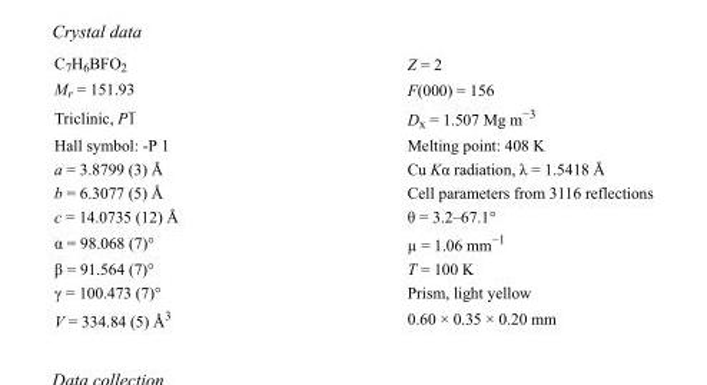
<table><tbody><tr><td>C<sub>7</sub>H<sub>6</sub>BFO<sub>2</sub></td><td>Z = 2</td></tr><tr><td>M<sub>r</sub> = 151.93</td><td>F(000) = 156</td></tr><tr><td>Triclinic, P1</td><td>D<sub>x</sub> = 1.507 Mg m<sup>−3</sup></td></tr><tr><td>Hall symbol: -P 1</td><td>Melting point: 408 K</td></tr><tr><td>a = 3.8799 (3) Å</td><td>Cu Kα radiation, λ = 1.5418 Å</td></tr><tr><td>b = 6.3077 (5) Å</td><td>Cell parameters from 3116 reflections</td></tr><tr><td>c = 14.0735 (12) Å</td><td>θ = 3.2–67.1°</td></tr><tr><td>α = 98.068 (7)°</td><td>µ = 1.06 mm<sup>−1</sup></td></tr><tr><td>β = 91.564 (7)°</td><td>T = 100 K</td></tr><tr><td>γ = 100.473 (7)°</td><td>Prism, light yellow</td></tr><tr><td>V = 334.84 (5) Å<sup>3</sup></td><td>0.60 × 0.35 × 0.20 mm</td></tr></tbody></table>